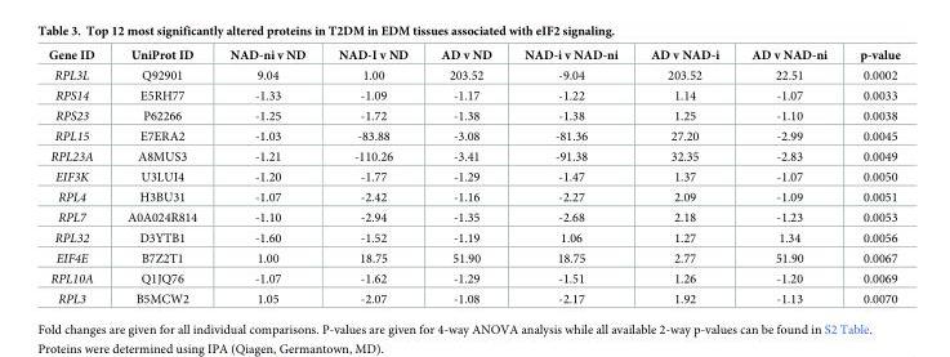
<table><thead><tr><td>Gene ID</td><td>UniProt ID</td><td>NAD-ni v ND</td><td>NAD-I v ND</td><td>AD v ND</td><td>NAD-i v NAD-ni</td><td>AD v NAD-i</td><td>AD v NAD-ni</td><td>p-value</td></tr></thead><tbody><tr><td>RPL3L</td><td>Q92901</td><td>9.04</td><td>1.00</td><td>203.52</td><td>-9.04</td><td>203.52</td><td>22.51</td><td>0.0002</td></tr><tr><td>RPS14</td><td>E5RH77</td><td>-1.33</td><td>-1.09</td><td>-1.17</td><td>-1.22</td><td>1.14</td><td>-1.07</td><td>0.0033</td></tr><tr><td>RPS23</td><td>P62266</td><td>-1.25</td><td>-1.72</td><td>-1.38</td><td>-1.38</td><td>1.25</td><td>-1.10</td><td>0.0038</td></tr><tr><td>RPL15</td><td>E7ERA2</td><td>-1.03</td><td>-83.88</td><td>-3.08</td><td>-81.36</td><td>27.20</td><td>-2.99</td><td>0.0045</td></tr><tr><td>RPL23A</td><td>A8MUS3</td><td>-1.21</td><td>-110.26</td><td>-3.41</td><td>-91.38</td><td>32.35</td><td>-2.83</td><td>0.0049</td></tr><tr><td>EIF3K</td><td>U3LUI4</td><td>-1.20</td><td>-1.77</td><td>-1.29</td><td>-1.47</td><td>1.37</td><td>-1.07</td><td>0.0050</td></tr><tr><td>RPL4</td><td>H3BU31</td><td>-1.07</td><td>-2.42</td><td>-1.16</td><td>-2.27</td><td>2.09</td><td>-1.09</td><td>0.0051</td></tr><tr><td>RPL7</td><td>A0A024R814</td><td>-1.10</td><td>-2.94</td><td>-1.35</td><td>-2.68</td><td>2.18</td><td>-1.23</td><td>0.0053</td></tr><tr><td>RPL32</td><td>D3YTB1</td><td>-1.60</td><td>-1.52</td><td>-1.19</td><td>1.06</td><td>1.27</td><td>1.34</td><td>0.0056</td></tr><tr><td>EIF4E</td><td>B7Z2T1</td><td>1.00</td><td>18.75</td><td>51.90</td><td>18.75</td><td>2.77</td><td>51.90</td><td>0.0067</td></tr><tr><td>RPL10A</td><td>Q1JQ76</td><td>-1.07</td><td>-1.62</td><td>-1.29</td><td>-1.51</td><td>1.26</td><td>-1.20</td><td>0.0069</td></tr><tr><td>RPL3</td><td>B5MCW2</td><td>1.05</td><td>-2.07</td><td>-1.08</td><td>-2.17</td><td>1.92</td><td>-1.13</td><td>0.0070</td></tr></tbody></table>